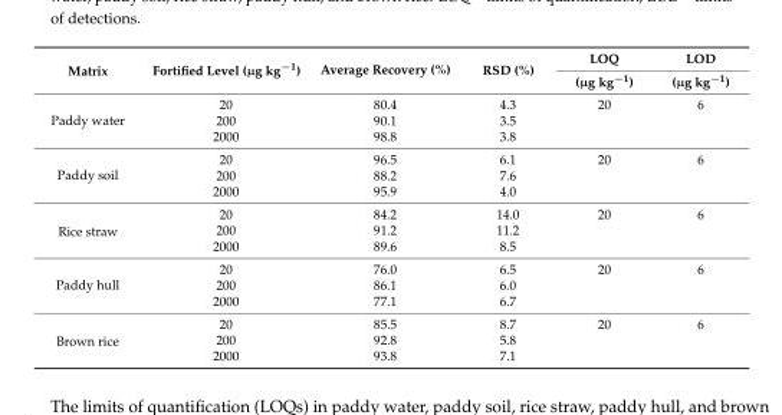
<table><thead><tr><td rowspan="2">Matrix</td><td rowspan="2">Fortified Level (µg kg<sup>−1</sup>)</td><td rowspan="2">Average Recovery (%)</td><td rowspan="2">RSD (%)</td><td rowspan="2">LOQ (µg kg<sup>−1</sup>)</td><td rowspan="2">LOD (µg kg<sup>−1</sup>)</td></tr><tr></tr></thead><tbody><tr><td rowspan="3">Paddy water</td><td>20</td><td>80.4</td><td>4.3</td><td>20</td><td>6</td></tr><tr><td>200</td><td>90.1</td><td>3.5</td><td></td><td></td></tr><tr><td>2000</td><td>98.8</td><td>3.8</td><td></td><td></td></tr><tr><td rowspan="3">Paddy soil</td><td>20</td><td>96.5</td><td>6.1</td><td>20</td><td>6</td></tr><tr><td>200</td><td>88.2</td><td>7.6</td><td></td><td></td></tr><tr><td>2000</td><td>95.9</td><td>4.0</td><td></td><td></td></tr><tr><td rowspan="3">Rice straw</td><td>20</td><td>84.2</td><td>14.0</td><td>20</td><td>6</td></tr><tr><td>200</td><td>91.2</td><td>11.2</td><td></td><td></td></tr><tr><td>2000</td><td>89.6</td><td>8.5</td><td></td><td></td></tr><tr><td rowspan="3">Paddy hull</td><td>20</td><td>76.0</td><td>6.5</td><td>20</td><td>6</td></tr><tr><td>200</td><td>86.1</td><td>6.0</td><td></td><td></td></tr><tr><td>2000</td><td>77.1</td><td>6.7</td><td></td><td></td></tr><tr><td rowspan="3">Brown rice</td><td>20</td><td>85.5</td><td>8.7</td><td>20</td><td>6</td></tr><tr><td>200</td><td>92.8</td><td>5.8</td><td></td><td></td></tr><tr><td>2000</td><td>93.8</td><td>7.1</td><td></td><td></td></tr></tbody></table>